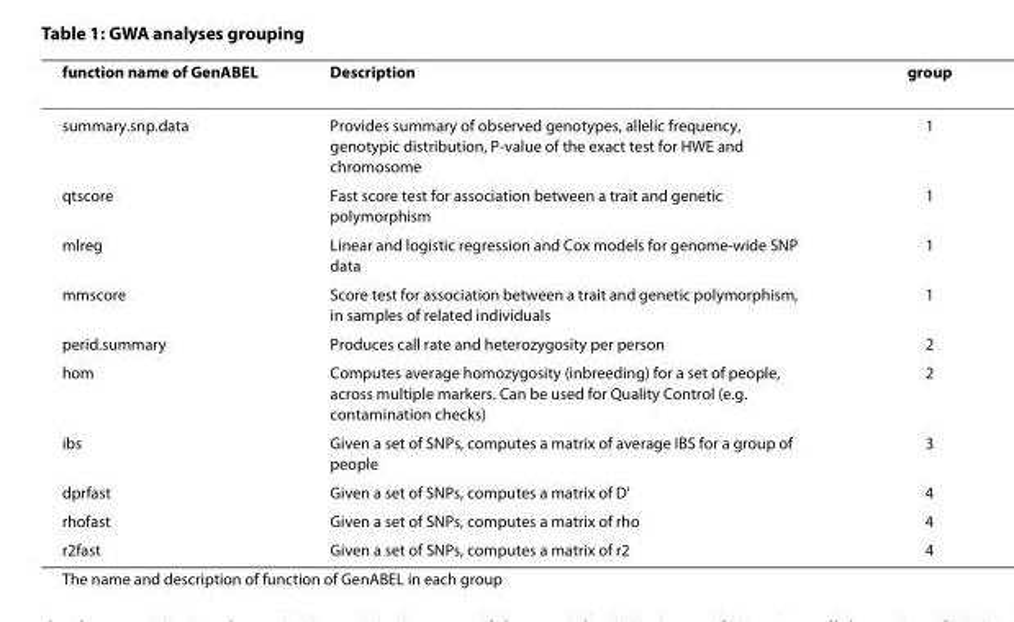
<table><thead><tr><td>function name of GenABEL</td><td>Description</td><td>group</td></tr></thead><tbody><tr><td>summary.snp.data</td><td>Provides summary of observed genotypes, allelic frequency, genotypic distribution, P-value of the exact test for HWE and chromosome</td><td>1</td></tr><tr><td>qtscore</td><td>Fast score test for association between a trait and genetic polymorphism</td><td>1</td></tr><tr><td>mlreg</td><td>Linear and logistic regression and Cox models for genome-wide SNP data</td><td>1</td></tr><tr><td>mmscore</td><td>Score test for association between a trait and genetic polymorphism, in samples of related individuals</td><td>1</td></tr><tr><td>perid.summary</td><td>Produces call rate and heterozygosity per person</td><td>2</td></tr><tr><td>hom</td><td>Computes average homozygosity (inbreeding) for a set of people, across multiple markers. Can be used for Quality Control (e.g. contamination checks)</td><td>2</td></tr><tr><td>ibs</td><td>Given a set of SNPs, computes a matrix of average IBS for a group of people</td><td>3</td></tr><tr><td>dprfast</td><td>Given a set of SNPs, computes a matrix of D&#x27;</td><td>4</td></tr><tr><td>rhofast</td><td>Given a set of SNPs, computes a matrix of rho</td><td>4</td></tr><tr><td>r2fast</td><td>Given a set of SNPs, computes a matrix of r2</td><td>4</td></tr></tbody></table>